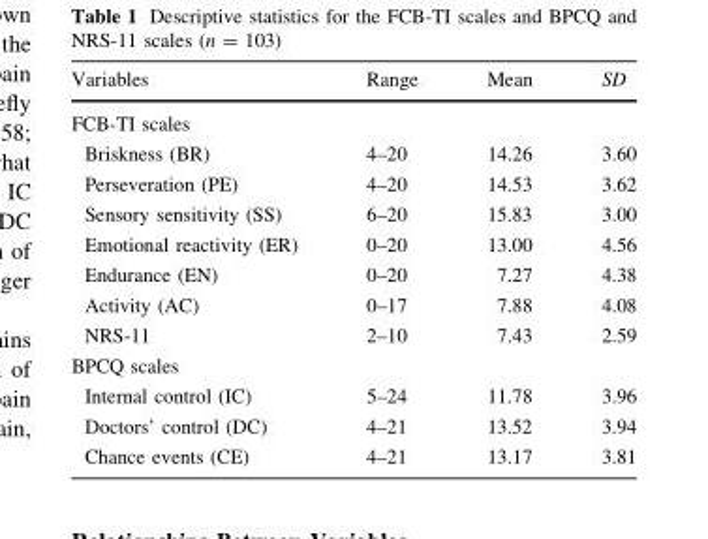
<table><thead><tr><td>Variables</td><td>Range</td><td>Mean</td><td>SD</td></tr></thead><tbody><tr><td colspan="4">FCB-TI scales</td></tr><tr><td>Briskness (BR)</td><td>4–20</td><td>14.26</td><td>3.60</td></tr><tr><td>Perseveration (PE)</td><td>4–20</td><td>14.53</td><td>3.62</td></tr><tr><td>Sensory sensitivity (SS)</td><td>6–20</td><td>15.83</td><td>3.00</td></tr><tr><td>Emotional reactivity (ER)</td><td>0–20</td><td>13.00</td><td>4.56</td></tr><tr><td>Endurance (EN)</td><td>0–20</td><td>7.27</td><td>4.38</td></tr><tr><td>Activity (AC)</td><td>0–17</td><td>7.88</td><td>4.08</td></tr><tr><td>NRS-11</td><td>2–10</td><td>7.43</td><td>2.59</td></tr><tr><td colspan="4">BPCQ scales</td></tr><tr><td>Internal control (IC)</td><td>5–24</td><td>11.78</td><td>3.96</td></tr><tr><td>Doctors’ control (DC)</td><td>4–21</td><td>13.52</td><td>3.94</td></tr><tr><td>Chance events (CE)</td><td>4–21</td><td>13.17</td><td>3.81</td></tr></tbody></table>